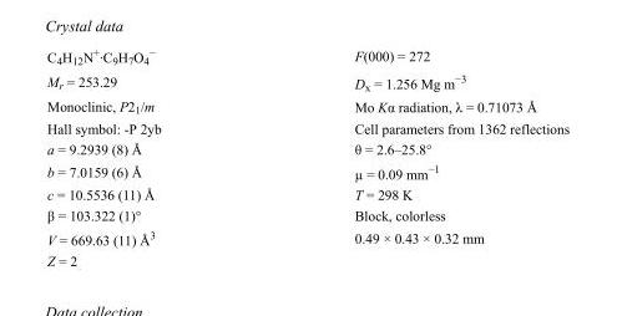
<table><tbody><tr><td>C<sub>4</sub>H<sub>12</sub>N<sup>+</sup>·C<sub>9</sub>H<sub>7</sub>O<sub>4</sub> <sup>−</sup></td><td>F(000) = 272</td></tr><tr><td>M<sub>r</sub> = 253.29</td><td>D<sub>x</sub> = 1.256 Mg m<sup>−3</sup></td></tr><tr><td>Monoclinic, P2<sub>1</sub>/m</td><td>Mo Kα radiation, λ = 0.71073 Å</td></tr><tr><td>Hall symbol: -P 2yb</td><td>Cell parameters from 1362 reflections</td></tr><tr><td>a = 9.2939 (8) Å</td><td>θ = 2.6–25.8°</td></tr><tr><td>b = 7.0159 (6) Å</td><td>µ = 0.09 mm<sup>−1</sup></td></tr><tr><td>c = 10.5536 (11) Å</td><td>T = 298 K</td></tr><tr><td>β = 103.322 (1)°</td><td>Block, colorless</td></tr><tr><td>V = 669.63 (11) Å<sup>3</sup></td><td>0.49 × 0.43 × 0.32 mm</td></tr><tr><td>Z = 2</td><td></td></tr></tbody></table>